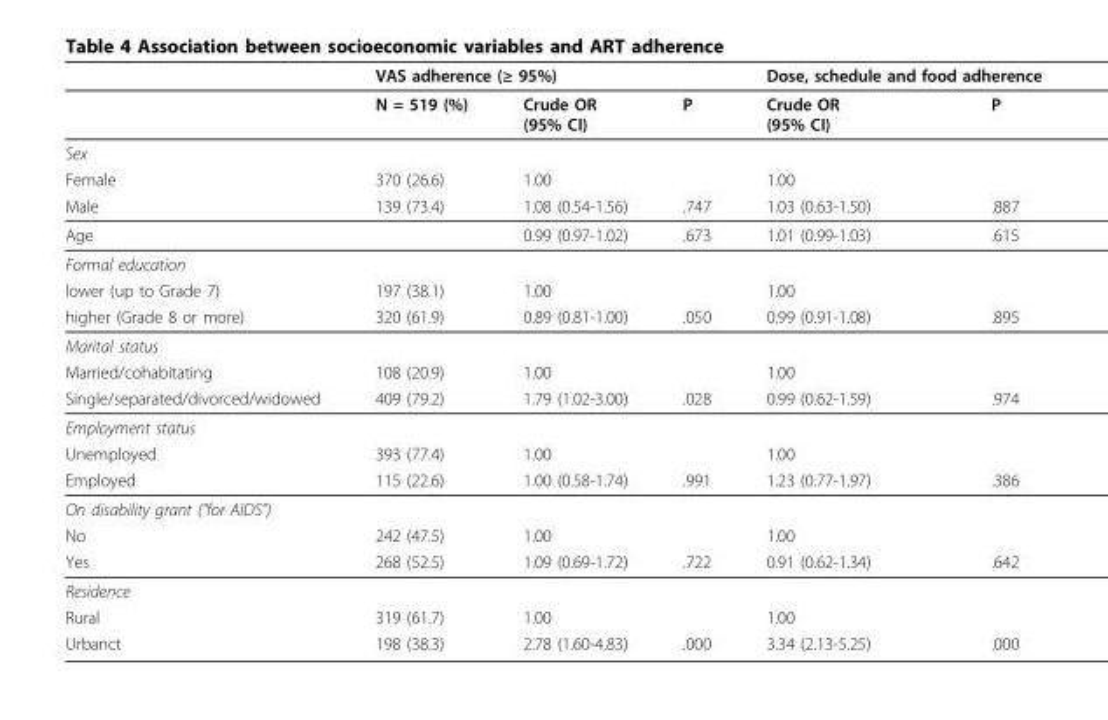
<table><thead><tr><td rowspan="2"></td><td colspan="3">VAS adherence (≥ 95%)</td><td colspan="2">Dose, schedule and food adherence</td></tr><tr><td>N = 519 (%)</td><td>Crude OR (95% CI)</td><td>P</td><td>Crude OR (95% CI)</td><td>P</td></tr></thead><tbody><tr><td colspan="6">Sex</td></tr><tr><td>Female</td><td>370 (26.6)</td><td>1.00</td><td></td><td>1.00</td><td></td></tr><tr><td>Male</td><td>139 (73.4)</td><td>1.08 (0.54-1.56)</td><td>.747</td><td>1.03 (0.63-1.50)</td><td>.887</td></tr><tr><td>Age</td><td></td><td>0.99 (0.97-1.02)</td><td>.673</td><td>1.01 (0.99-1.03)</td><td>.615</td></tr><tr><td colspan="6">Formal education</td></tr><tr><td>lower (up to Grade 7)</td><td>197 (38.1)</td><td>1.00</td><td></td><td>1.00</td><td></td></tr><tr><td>higher (Grade 8 or more)</td><td>320 (61.9)</td><td>0.89 (0.81-1.00)</td><td>.050</td><td>0.99 (0.91-1.08)</td><td>.895</td></tr><tr><td colspan="6">Marital status</td></tr><tr><td>Married/cohabitating</td><td>108 (20.9)</td><td>1.00</td><td></td><td>1.00</td><td></td></tr><tr><td>Single/separated/divorced/widowed</td><td>409 (79.2)</td><td>1.79 (1.02-3.00)</td><td>.028</td><td>0.99 (0.62-1.59)</td><td>.974</td></tr><tr><td colspan="6">Employment status</td></tr><tr><td>Unemployed</td><td>393 (77.4)</td><td>1.00</td><td></td><td>1.00</td><td></td></tr><tr><td>Employed</td><td>115 (22.6)</td><td>1.00 (0.58-1.74)</td><td>.991</td><td>1.23 (0.77-1.97)</td><td>.386</td></tr><tr><td colspan="6">On disability grant (&quot;for AIDS”)</td></tr><tr><td>No</td><td>242 (47.5)</td><td>1.00</td><td></td><td>1.00</td><td></td></tr><tr><td>Yes</td><td>268 (52.5)</td><td>1.09 (0.69-1.72)</td><td>.722</td><td>0.91 (0.62-1.34)</td><td>.642</td></tr><tr><td colspan="6">Residence</td></tr><tr><td>Rural</td><td>319 (61.7)</td><td>1.00</td><td></td><td>1.00</td><td></td></tr><tr><td>Urbanct</td><td>198 (38.3)</td><td>2.78 (1.60-4.83)</td><td>.000</td><td>3.34 (2.13-5.25)</td><td>.000</td></tr></tbody></table>